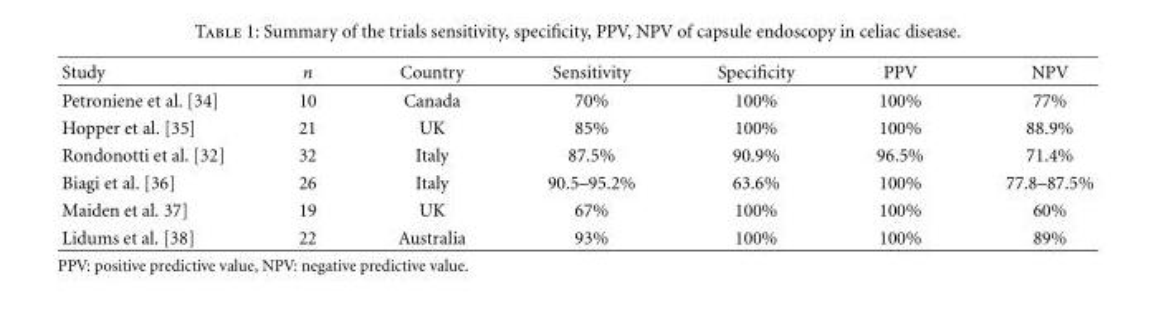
<table><thead><tr><td>Study</td><td>n</td><td>Country</td><td>Sensitivity</td><td>Specificity</td><td>PPV</td><td>NPV</td></tr></thead><tbody><tr><td>Petroniene et al. [34]</td><td>10</td><td>Canada</td><td>70%</td><td>100%</td><td>100%</td><td>77%</td></tr><tr><td>Hopper et al. [35]</td><td>21</td><td>UK</td><td>85%</td><td>100%</td><td>100%</td><td>88.9%</td></tr><tr><td>Rondonotti et al. [32]</td><td>32</td><td>Italy</td><td>87.5%</td><td>90.9%</td><td>96.5%</td><td>71.4%</td></tr><tr><td>Biagi et al. [36]</td><td>26</td><td>Italy</td><td>90.5–95.2%</td><td>63.6%</td><td>100%</td><td>77.8–87.5%</td></tr><tr><td>Maiden et al. 37]</td><td>19</td><td>UK</td><td>67%</td><td>100%</td><td>100%</td><td>60%</td></tr><tr><td>Lidums et al. [38]</td><td>22</td><td>Australia</td><td>93%</td><td>100%</td><td>100%</td><td>89%</td></tr></tbody></table>